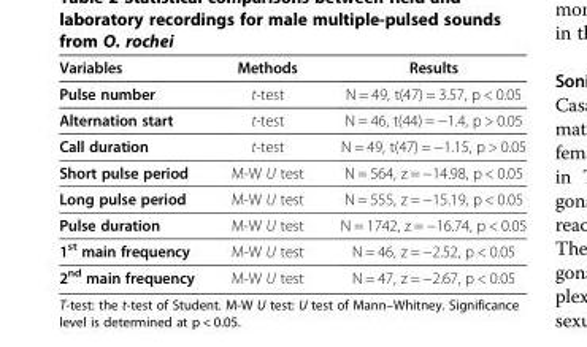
<table><thead><tr><td>Variables</td><td>Methods</td><td>Results</td></tr></thead><tbody><tr><td>Pulse number</td><td>t-test</td><td>N = 49, t(47) = 3.57, p &lt; 0.05</td></tr><tr><td>Alternation start</td><td>t-test</td><td>N = 46, t(44) = −1.4, p &gt; 0.05</td></tr><tr><td>Call duration</td><td>t-test</td><td>N = 49, t(47) = −1.15, p &gt; 0.05</td></tr><tr><td>Short pulse period</td><td>M-W U test</td><td>N = 564, z = −14.98, p &lt; 0.05</td></tr><tr><td>Long pulse period</td><td>M-W U test</td><td>N = 555, z = −15.19, p &lt; 0.05</td></tr><tr><td>Pulse duration</td><td>M-W U test</td><td>N = 1742, z = −16.74, p &lt; 0.05</td></tr><tr><td>1<sup>st</sup> main frequency</td><td>M-W U test</td><td>N = 46, z = −2.52, p &lt; 0.05</td></tr><tr><td>2<sup>nd</sup> main frequency</td><td>M-W U test</td><td>N = 47, z = −2.67, p &lt; 0.05</td></tr></tbody></table>